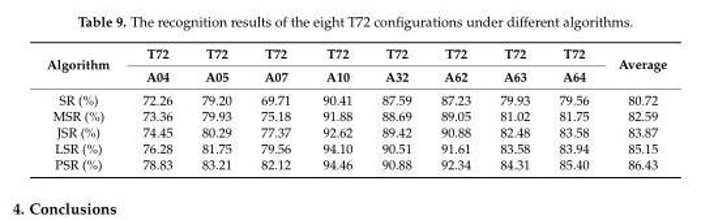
<table><thead><tr><td rowspan="2">Algorithm</td><td rowspan="2">T72 A04</td><td rowspan="2">T72 A05</td><td rowspan="2">T72 A07</td><td rowspan="2">T72 A10</td><td rowspan="2">T72 A32</td><td rowspan="2">T72 A62</td><td rowspan="2">T72 A63</td><td rowspan="2">T72 A64</td><td rowspan="2">Average</td></tr><tr></tr></thead><tbody><tr><td>SR (%)</td><td>72.26</td><td>79.20</td><td>69.71</td><td>90.41</td><td>87.59</td><td>87.23</td><td>79.93</td><td>79.56</td><td>80.72</td></tr><tr><td>MSR (%)</td><td>73.36</td><td>79.93</td><td>75.18</td><td>91.88</td><td>88.69</td><td>89.05</td><td>81.02</td><td>81.75</td><td>82.59</td></tr><tr><td>JSR (%)</td><td>74.45</td><td>80.29</td><td>77.37</td><td>92.62</td><td>89.42</td><td>90.88</td><td>82.48</td><td>83.58</td><td>83.87</td></tr><tr><td>LSR (%)</td><td>76.28</td><td>81.75</td><td>79.56</td><td>94.10</td><td>90.51</td><td>91.61</td><td>83.58</td><td>83.94</td><td>85.15</td></tr><tr><td>PSR (%)</td><td>78.83</td><td>83.21</td><td>82.12</td><td>94.46</td><td>90.88</td><td>92.34</td><td>84.31</td><td>85.40</td><td>86.43</td></tr></tbody></table>